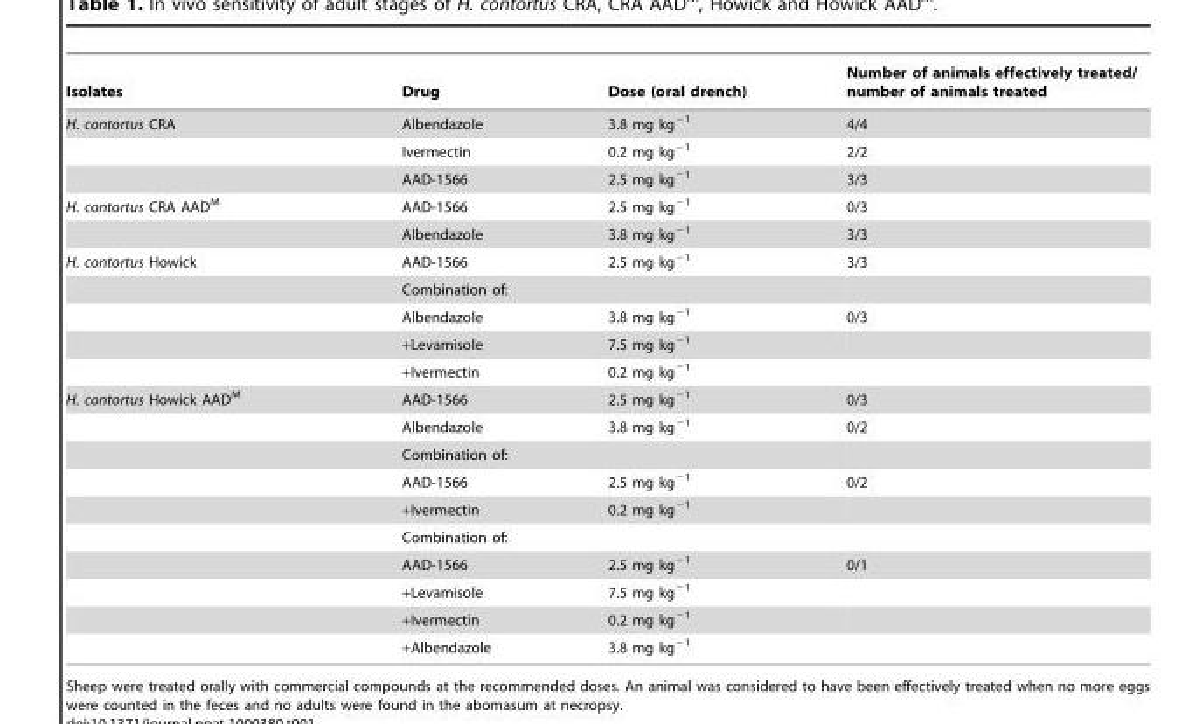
<table><thead><tr><td>Isolates</td><td>Drug</td><td>Dose (oral drench)</td><td>Number of animals effectively treated/ number of animals treated</td></tr></thead><tbody><tr><td rowspan="3">H. contortus CRA</td><td>Albendazole</td><td>3.8 mg kg<sup>−1</sup></td><td>4/4</td></tr><tr><td>Ivermectin</td><td>0.2 mg kg<sup>−1</sup></td><td>2/2</td></tr><tr><td>AAD-1566</td><td>2.5 mg kg<sup>−1</sup></td><td>3/3</td></tr><tr><td rowspan="2">H. contortus CRA AAD<sup>M</sup></td><td>AAD-1566</td><td>2.5 mg kg<sup>−1</sup></td><td>0/3</td></tr><tr><td>Albendazole</td><td>3.8 mg kg<sup>−1</sup></td><td>3/3</td></tr><tr><td rowspan="5">H. contortus Howick</td><td>AAD-1566</td><td>2.5 mg kg<sup>−1</sup></td><td>3/3</td></tr><tr><td>Combination of:</td><td></td><td></td></tr><tr><td>Albendazole</td><td>3.8 mg kg<sup>−1</sup></td><td>0/3</td></tr><tr><td>+Levamisole</td><td>7.5 mg kg<sup>−1</sup></td><td></td></tr><tr><td>+Ivermectin</td><td>0.2 mg kg<sup>−1</sup></td><td></td></tr><tr><td rowspan="10">H. contortus Howick AAD<sup>M</sup></td><td>AAD-1566</td><td>2.5 mg kg<sup>−1</sup></td><td>0/3</td></tr><tr><td>Albendazole</td><td>3.8 mg kg<sup>−1</sup></td><td>0/2</td></tr><tr><td>Combination of:</td><td></td><td></td></tr><tr><td>AAD-1566</td><td>2.5 mg kg<sup>−1</sup></td><td>0/2</td></tr><tr><td>+Ivermectin</td><td>0.2 mg kg<sup>−1</sup></td><td></td></tr><tr><td>Combination of:</td><td></td><td></td></tr><tr><td>AAD-1566</td><td>2.5 mg kg<sup>−1</sup></td><td>0/1</td></tr><tr><td>+Levamisole</td><td>7.5 mg kg<sup>−1</sup></td><td></td></tr><tr><td>+Ivermectin</td><td>0.2 mg kg<sup>−1</sup></td><td></td></tr><tr><td>+Albendazole</td><td>3.8 mg kg<sup>−1</sup></td><td></td></tr></tbody></table>